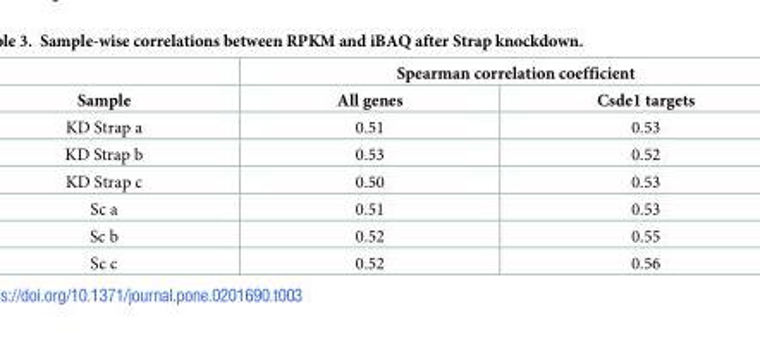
<table><thead><tr><td rowspan="2">Sample</td><td colspan="2">Spearman correlation coefficient</td></tr><tr><td>All genes</td><td>Csde1 targets</td></tr></thead><tbody><tr><td>KD Strap a</td><td>0.51</td><td>0.53</td></tr><tr><td>KD Strap b</td><td>0.53</td><td>0.52</td></tr><tr><td>KD Strap c</td><td>0.50</td><td>0.53</td></tr><tr><td>Sc a</td><td>0.51</td><td>0.53</td></tr><tr><td>Sc b</td><td>0.52</td><td>0.55</td></tr><tr><td>Sc c</td><td>0.52</td><td>0.56</td></tr></tbody></table>